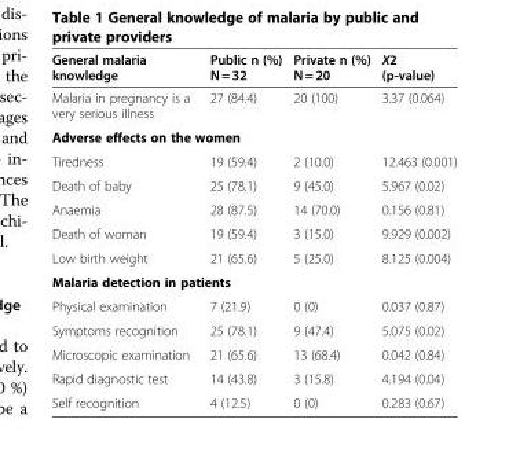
<table><thead><tr><td>General malaria knowledge</td><td>Public n (%) N = 32</td><td>Private n (%) N = 20</td><td>X2 (p-value)</td></tr></thead><tbody><tr><td>Malaria in pregnancy is a very serious illness</td><td>27 (84.4)</td><td>20 (100)</td><td>3.37 (0.064)</td></tr><tr><td colspan="4">Adverse effects on the women</td></tr><tr><td>Tiredness</td><td>19 (59.4)</td><td>2 (10.0)</td><td>12.463 (0.001)</td></tr><tr><td>Death of baby</td><td>25 (78.1)</td><td>9 (45.0)</td><td>5.967 (0.02)</td></tr><tr><td>Anaemia</td><td>28 (87.5)</td><td>14 (70.0)</td><td>0.156 (0.81)</td></tr><tr><td>Death of woman</td><td>19 (59.4)</td><td>3 (15.0)</td><td>9.929 (0.002)</td></tr><tr><td>Low birth weight</td><td>21 (65.6)</td><td>5 (25.0)</td><td>8.125 (0.004)</td></tr><tr><td colspan="4">Malaria detection in patients</td></tr><tr><td>Physical examination</td><td>7 (21.9)</td><td>0 (0)</td><td>0.037 (0.87)</td></tr><tr><td>Symptoms recognition</td><td>25 (78.1)</td><td>9 (47.4)</td><td>5.075 (0.02)</td></tr><tr><td>Microscopic examination</td><td>21 (65.6)</td><td>13 (68.4)</td><td>0.042 (0.84)</td></tr><tr><td>Rapid diagnostic test</td><td>14 (43.8)</td><td>3 (15.8)</td><td>4.194 (0.04)</td></tr><tr><td>Self recognition</td><td>4 (12.5)</td><td>0 (0)</td><td>0.283 (0.67)</td></tr></tbody></table>